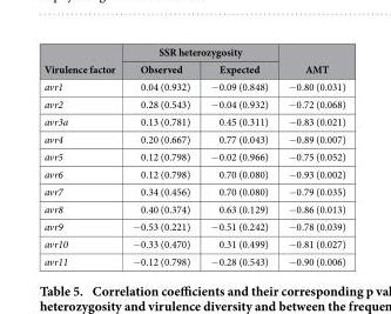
<table><thead><tr><td rowspan="2">Virulence factor</td><td colspan="2">SSR heterozygosity</td><td rowspan="2">AMT</td></tr><tr><td>Observed</td><td>Expected</td></tr></thead><tbody><tr><td>avr1</td><td>0.04 (0.932)</td><td>− 0.09 (0.848)</td><td>− 0.80 (0.031)</td></tr><tr><td>avr2</td><td>0.28 (0.543)</td><td>− 0.04 (0.932)</td><td>− 0.72 (0.068)</td></tr><tr><td>avr3a</td><td>0.13 (0.781)</td><td>0.45 (0.311)</td><td>− 0.83 (0.021)</td></tr><tr><td>avr4</td><td>0.20 (0.667)</td><td>0.77 (0.043)</td><td>− 0.89 (0.007)</td></tr><tr><td>avr5</td><td>0.12 (0.798)</td><td>− 0.02 (0.966)</td><td>− 0.75 (0.052)</td></tr><tr><td>avr6</td><td>0.12 (0.798)</td><td>0.70 (0.080)</td><td>− 0.93 (0.002)</td></tr><tr><td>avr7</td><td>0.34 (0.456)</td><td>0.70 (0.080)</td><td>− 0.79 (0.035)</td></tr><tr><td>avr8</td><td>0.40 (0.374)</td><td>0.63 (0.129)</td><td>− 0.86 (0.013)</td></tr><tr><td>avr9</td><td>− 0.53 (0.221)</td><td>− 0.51 (0.242)</td><td>− 0.78 (0.039)</td></tr><tr><td>avr10</td><td>− 0.33 (0.470)</td><td>0.31 (0.499)</td><td>− 0.81 (0.027)</td></tr><tr><td>avr11</td><td>− 0.12 (0.798)</td><td>− 0.28 (0.543)</td><td>− 0.90 (0.006)</td></tr></tbody></table>